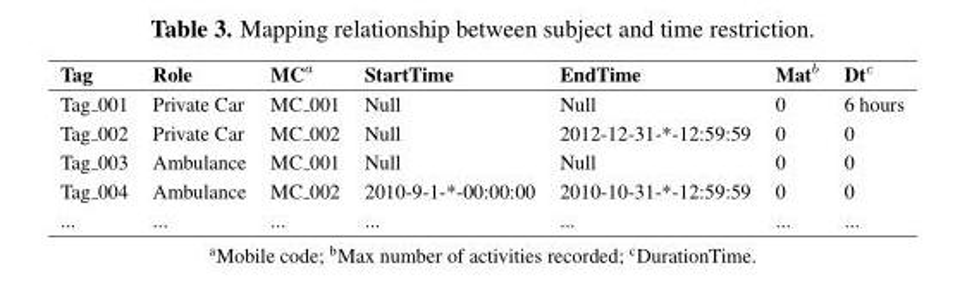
<table><thead><tr><td>Tag</td><td>Role</td><td>MC<sup>a</sup></td><td>StartTime</td><td>EndTime</td><td>Mat<sup>b</sup></td><td>Dt<sup>c</sup></td></tr></thead><tbody><tr><td>Tag 001</td><td>Private Car</td><td>MC 001</td><td>Null</td><td>Null</td><td>0</td><td>6 hours</td></tr><tr><td>Tag 002</td><td>Private Car</td><td>MC 002</td><td>Null</td><td>2012-12-31-*-12:59:59</td><td>0</td><td>0</td></tr><tr><td>Tag 003</td><td>Ambulance</td><td>MC 001</td><td>Null</td><td>Null</td><td>0</td><td>0</td></tr><tr><td>Tag 004</td><td>Ambulance</td><td>MC 002</td><td>2010-9-1-*-00:00:00</td><td>2010-10-31-*-12:59:59</td><td>0</td><td>0</td></tr><tr><td>...</td><td>...</td><td>...</td><td>...</td><td>...</td><td>...</td><td>...</td></tr></tbody></table>